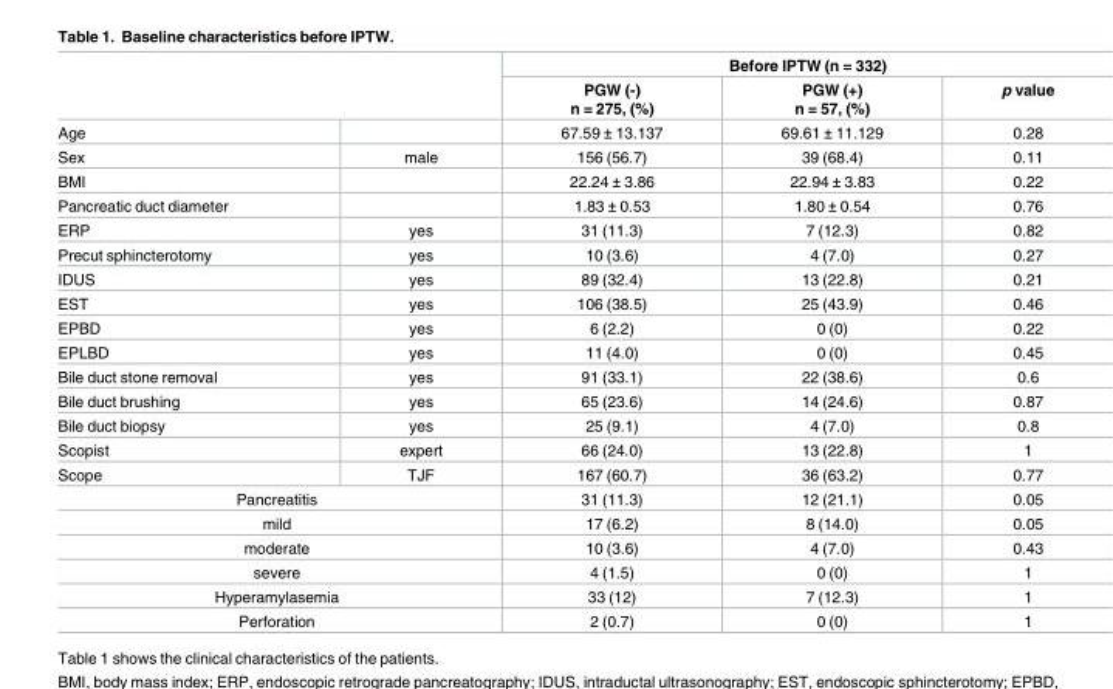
<table><thead><tr><td rowspan="2"></td><td rowspan="2"></td><td colspan="3">Before IPTW (n = 332)</td></tr><tr><td>PGW (-) n = 275, (%)</td><td>PGW (+) n = 57, (%)</td><td>p value</td></tr></thead><tbody><tr><td>Age</td><td></td><td>67.59 ± 13.137</td><td>69.61 ± 11.129</td><td>0.28</td></tr><tr><td>Sex</td><td>male</td><td>156 (56.7)</td><td>39 (68.4)</td><td>0.11</td></tr><tr><td>BMI</td><td></td><td>22.24 ± 3.86</td><td>22.94 ± 3.83</td><td>0.22</td></tr><tr><td>Pancreatic duct diameter</td><td></td><td>1.83 ± 0.53</td><td>1.80 ± 0.54</td><td>0.76</td></tr><tr><td>ERP</td><td>yes</td><td>31 (11.3)</td><td>7 (12.3)</td><td>0.82</td></tr><tr><td>Precut sphincterotomy</td><td>yes</td><td>10 (3.6)</td><td>4 (7.0)</td><td>0.27</td></tr><tr><td>IDUS</td><td>yes</td><td>89 (32.4)</td><td>13 (22.8)</td><td>0.21</td></tr><tr><td>EST</td><td>yes</td><td>106 (38.5)</td><td>25 (43.9)</td><td>0.46</td></tr><tr><td>EPBD</td><td>yes</td><td>6 (2.2)</td><td>0 (0)</td><td>0.22</td></tr><tr><td>EPLBD</td><td>yes</td><td>11 (4.0)</td><td>0 (0)</td><td>0.45</td></tr><tr><td>Bile duct stone removal</td><td>yes</td><td>91 (33.1)</td><td>22 (38.6)</td><td>0.6</td></tr><tr><td>Bile duct brushing</td><td>yes</td><td>65 (23.6)</td><td>14 (24.6)</td><td>0.87</td></tr><tr><td>Bile duct biopsy</td><td>yes</td><td>25 (9.1)</td><td>4 (7.0)</td><td>0.8</td></tr><tr><td>Scopist</td><td>expert</td><td>66 (24.0)</td><td>13 (22.8)</td><td>1</td></tr><tr><td>Scope</td><td>TJF</td><td>167 (60.7)</td><td>36 (63.2)</td><td>0.77</td></tr><tr><td colspan="2">Pancreatitis</td><td>31 (11.3)</td><td>12 (21.1)</td><td>0.05</td></tr><tr><td colspan="2">mild</td><td>17 (6.2)</td><td>8 (14.0)</td><td>0.05</td></tr><tr><td colspan="2">moderate</td><td>10 (3.6)</td><td>4 (7.0)</td><td>0.43</td></tr><tr><td colspan="2">severe</td><td>4 (1.5)</td><td>0 (0)</td><td>1</td></tr><tr><td colspan="2">Hyperamylasemia</td><td>33 (12)</td><td>7 (12.3)</td><td>1</td></tr><tr><td colspan="2">Perforation</td><td>2 (0.7)</td><td>0 (0)</td><td>1</td></tr></tbody></table>